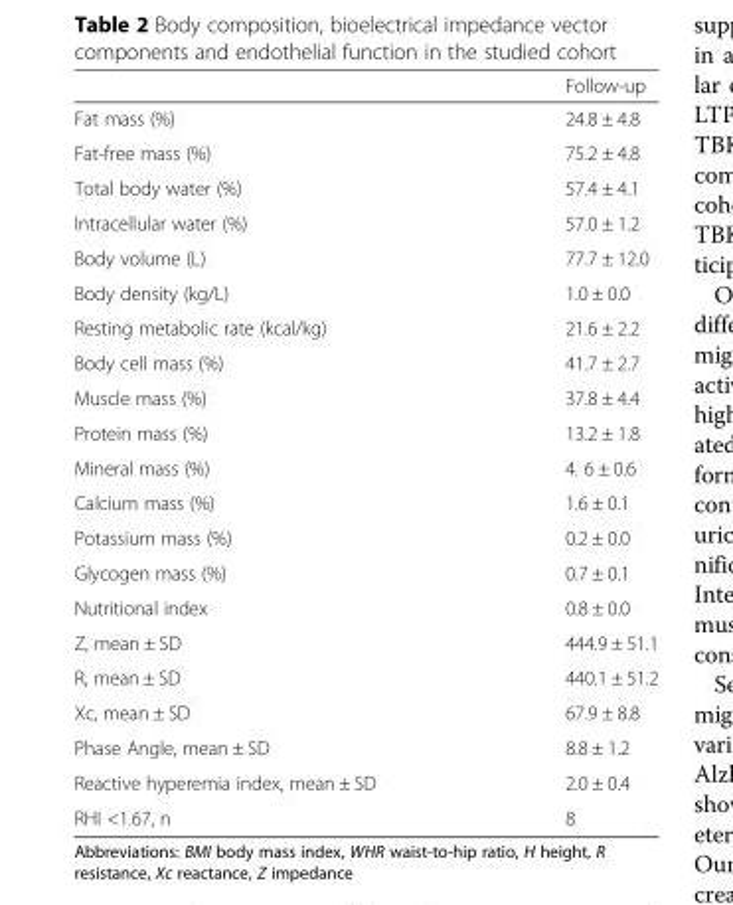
<table><thead><tr><td></td><td>Follow-up</td></tr></thead><tbody><tr><td>Fat mass (%)</td><td>24.8 ± 4.8</td></tr><tr><td>Fat-free mass (%)</td><td>75.2 ± 4.8</td></tr><tr><td>Total body water (%)</td><td>57.4 ± 4.1</td></tr><tr><td>Intracellular water (%)</td><td>57.0 ± 1.2</td></tr><tr><td>Body volume (L)</td><td>77.7 ± 12.0</td></tr><tr><td>Body density (kg/L)</td><td>1.0 ± 0.0</td></tr><tr><td>Resting metabolic rate (kcal/kg)</td><td>21.6 ± 2.2</td></tr><tr><td>Body cell mass (%)</td><td>41.7 ± 2.7</td></tr><tr><td>Muscle mass (%)</td><td>37.8 ± 4.4</td></tr><tr><td>Protein mass (%)</td><td>13.2 ± 1.8</td></tr><tr><td>Mineral mass (%)</td><td>4. 6 ± 0.6</td></tr><tr><td>Calcium mass (%)</td><td>1.6 ± 0.1</td></tr><tr><td>Potassium mass (%)</td><td>0.2 ± 0.0</td></tr><tr><td>Glycogen mass (%)</td><td>0.7 ± 0.1</td></tr><tr><td>Nutritional index</td><td>0.8 ± 0.0</td></tr><tr><td>Z, mean ± SD</td><td>444.9 ± 51.1</td></tr><tr><td>R, mean ± SD</td><td>440.1 ± 51.2</td></tr><tr><td>Xc, mean ± SD</td><td>67.9 ± 8.8</td></tr><tr><td>Phase Angle, mean ± SD</td><td>8.8 ± 1.2</td></tr><tr><td>Reactive hyperemia index, mean ± SD</td><td>2.0 ± 0.4</td></tr><tr><td>RHI &lt;1.67, n</td><td>8</td></tr></tbody></table>